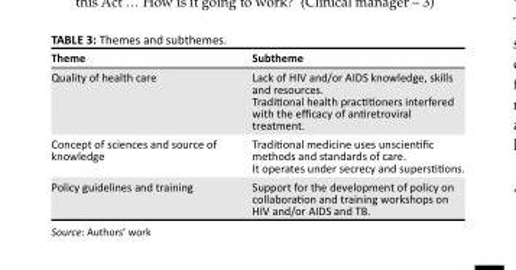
<table><thead><tr><td>Theme</td><td>Subtheme</td></tr></thead><tbody><tr><td>Quality of health care</td><td>Lack of HIV and/or AIDS knowledge, skills and resources. Traditional health practitioners interfered with the efficacy of antiretroviral treatment.</td></tr><tr><td>Concept of sciences and source of knowledge</td><td>Traditional medicine uses unscientific methods and standards of care. It operates under secrecy and superstitions.</td></tr><tr><td>Policy guidelines and training</td><td>Support for the development of policy on collaboration and training workshops on HIV and/or AIDS and TB.</td></tr></tbody></table>